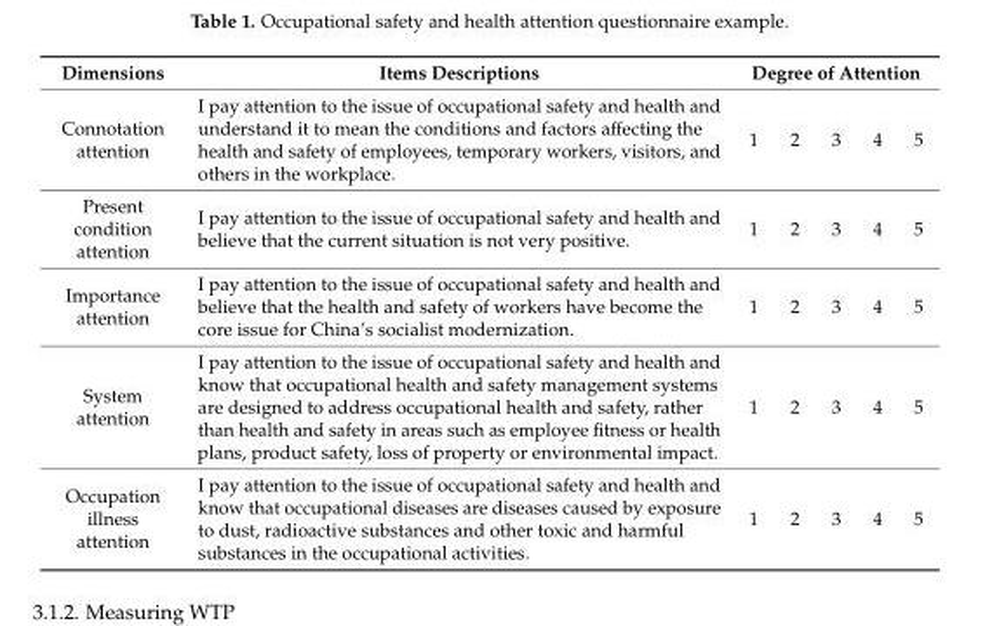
<table><thead><tr><td rowspan="2">Dimensions Connotation attention</td><td rowspan="2">Items Descriptions I pay attention to the issue of occupational safety and health and understand it to mean the conditions and factors affecting the health and safety of employees, temporary workers, visitors, and others in the workplace.</td><td colspan="5">Degree of Attention</td></tr><tr><td>1</td><td>2</td><td>3</td><td>4</td><td>5</td></tr></thead><tbody><tr><td>Present condition attention</td><td>I pay attention to the issue of occupational safety and health and believe that the current situation is not very positive.</td><td>1</td><td>2</td><td>3</td><td>4</td><td>5</td></tr><tr><td>Importance attention</td><td>I pay attention to the issue of occupational safety and health and believe that the health and safety of workers have become the core issue for China’s socialist modernization.</td><td>1</td><td>2</td><td>3</td><td>4</td><td>5</td></tr><tr><td>System attention</td><td>I pay attention to the issue of occupational safety and health and know that occupational health and safety management systems are designed to address occupational health and safety, rather than health and safety in areas such as employee fitness or health plans, product safety, loss of property or environmental impact.</td><td>1</td><td>2</td><td>3</td><td>4</td><td>5</td></tr><tr><td>Occupation illness attention</td><td>I pay attention to the issue of occupational safety and health and know that occupational diseases are diseases caused by exposure to dust, radioactive substances and other toxic and harmful substances in the occupational activities.</td><td>1</td><td>2</td><td>3</td><td>4</td><td>5</td></tr></tbody></table>